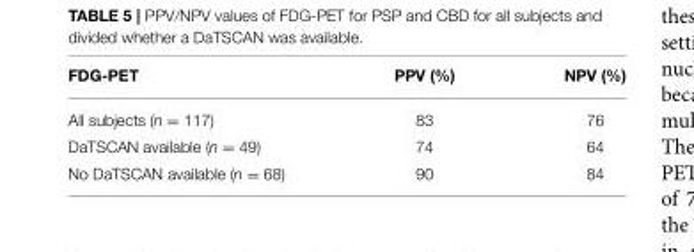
<table><thead><tr><td>FDG-PET</td><td>PPV (%)</td><td>NPV (%)</td></tr></thead><tbody><tr><td>All subjects (n = 117)</td><td>83</td><td>76</td></tr><tr><td>DaTSCAN available (n = 49)</td><td>74</td><td>64</td></tr><tr><td>No DaTSCAN available (n = 68)</td><td>90</td><td>84</td></tr></tbody></table>